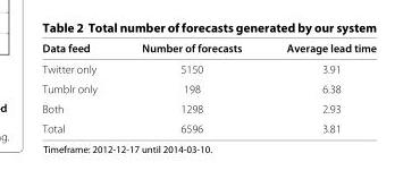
<table><thead><tr><td>Data feed</td><td>Number of forecasts</td><td>Average lead time</td></tr></thead><tbody><tr><td>Twitter only</td><td>5150</td><td>3.91</td></tr><tr><td>Tumblr only</td><td>198</td><td>6.38</td></tr><tr><td>Both</td><td>1298</td><td>2.93</td></tr><tr><td>Total</td><td>6596</td><td>3.81</td></tr></tbody></table>